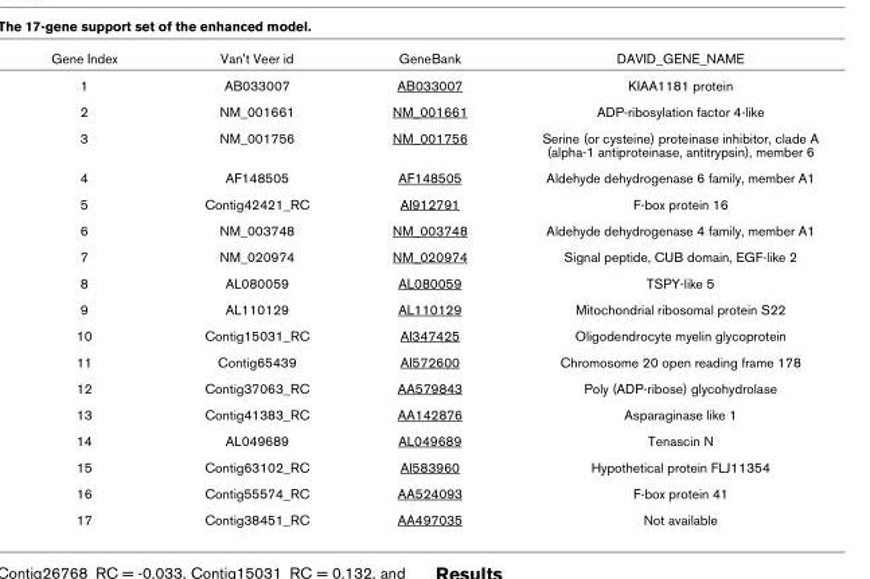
<table><thead><tr><td>Gene Index</td><td>Van&#x27;t Veer id</td><td>GeneBank</td><td>DAVID_GENE_NAME</td></tr></thead><tbody><tr><td>1</td><td>AB033007</td><td>AB033007</td><td>KIAA1181 protein</td></tr><tr><td>2</td><td>NM_001661</td><td>NM_001661</td><td>ADP-ribosylation factor 4-like</td></tr><tr><td>3</td><td>NM_001756</td><td>NM_001756</td><td>Serine (or cysteine) proteinase inhibitor, clade A (alpha-1 antiproteinase, antitrypsin), member 6</td></tr><tr><td>4</td><td>AF148505</td><td>AF148505</td><td>Aldehyde dehydrogenase 6 family, member A1</td></tr><tr><td>5</td><td>Contig42421_RC</td><td>AI912791</td><td>F-box protein 16</td></tr><tr><td>6</td><td>NM_003748</td><td>NM_003748</td><td>Aldehyde dehydrogenase 4 family, member A1</td></tr><tr><td>7</td><td>NM_020974</td><td>NM_020974</td><td>Signal peptide, CUB domain, EGF-like 2</td></tr><tr><td>8</td><td>AL080059</td><td>AL080059</td><td>TSPY-like 5</td></tr><tr><td>9</td><td>AL110129</td><td>AL110129</td><td>Mitochondrial ribosomal protein S22</td></tr><tr><td>10</td><td>Contig15031_RC</td><td>AI347425</td><td>Oligodendrocyte myelin glycoprotein</td></tr><tr><td>11</td><td>Contig65439</td><td>AI572600</td><td>Chromosome 20 open reading frame 178</td></tr><tr><td>12</td><td>Contig37063_RC</td><td>AA579843</td><td>Poly (ADP-ribose) glycohydrolase</td></tr><tr><td>13</td><td>Contig41383_RC</td><td>AA142876</td><td>Asparaginase like 1</td></tr><tr><td>14</td><td>AL049689</td><td>AL049689</td><td>Tenascin N</td></tr><tr><td>15</td><td>Contig63102_RC</td><td>AI583960</td><td>Hypothetical protein FLJ11354</td></tr><tr><td>16</td><td>Contig55574_RC</td><td>AA524093</td><td>F-box protein 41</td></tr><tr><td>17</td><td>Contig38451_RC</td><td>AA497035</td><td>Not available</td></tr></tbody></table>